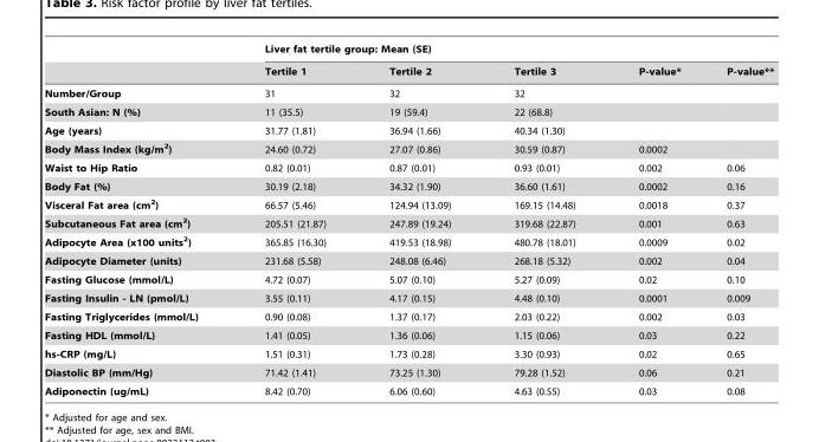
<table><thead><tr><td rowspan="2"></td><td colspan="5">Liver fat tertile group: Mean (SE)</td></tr><tr><td>Tertile 1</td><td>Tertile 2</td><td>Tertile 3</td><td>P-value*</td><td>P-value**</td></tr></thead><tbody><tr><td>Number/Group</td><td>31</td><td>32</td><td>32</td><td></td><td></td></tr><tr><td>South Asian: N (%)</td><td>11 (35.5)</td><td>19 (59.4)</td><td>22 (68.8)</td><td></td><td></td></tr><tr><td>Age (years)</td><td>31.77 (1.81)</td><td>36.94 (1.66)</td><td>40.34 (1.30)</td><td></td><td></td></tr><tr><td>Body Mass Index (kg/m<sup>2</sup>)</td><td>24.60 (0.72)</td><td>27.07 (0.86)</td><td>30.59 (0.87)</td><td>0.0002</td><td></td></tr><tr><td>Waist to Hip Ratio</td><td>0.82 (0.01)</td><td>0.87 (0.01)</td><td>0.93 (0.01)</td><td>0.002</td><td>0.06</td></tr><tr><td>Body Fat (%)</td><td>30.19 (2.18)</td><td>34.32 (1.90)</td><td>36.60 (1.61)</td><td>0.0002</td><td>0.16</td></tr><tr><td>Visceral Fat area (cm<sup>2</sup>)</td><td>66.57 (5.46)</td><td>124.94 (13.09)</td><td>169.15 (14.48)</td><td>0.0018</td><td>0.37</td></tr><tr><td>Subcutaneous Fat area (cm<sup>2</sup>)</td><td>205.51 (21.87)</td><td>247.89 (19.24)</td><td>319.68 (22.87)</td><td>0.001</td><td>0.63</td></tr><tr><td>Adipocyte Area (x100 units<sup>2</sup>)</td><td>365.85 (16.30)</td><td>419.53 (18.98)</td><td>480.78 (18.01)</td><td>0.0009</td><td>0.02</td></tr><tr><td>Adipocyte Diameter (units)</td><td>231.68 (5.58)</td><td>248.08 (6.46)</td><td>268.18 (5.32)</td><td>0.002</td><td>0.04</td></tr><tr><td>Fasting Glucose (mmol/L)</td><td>4.72 (0.07)</td><td>5.07 (0.10)</td><td>5.27 (0.09)</td><td>0.02</td><td>0.10</td></tr><tr><td>Fasting Insulin - LN (pmol/L)</td><td>3.55 (0.11)</td><td>4.17 (0.15)</td><td>4.48 (0.10)</td><td>0.0001</td><td>0.009</td></tr><tr><td>Fasting Triglycerides (mmol/L)</td><td>0.90 (0.08)</td><td>1.37 (0.17)</td><td>2.03 (0.22)</td><td>0.002</td><td>0.03</td></tr><tr><td>Fasting HDL (mmol/L)</td><td>1.41 (0.05)</td><td>1.36 (0.06)</td><td>1.15 (0.06)</td><td>0.03</td><td>0.22</td></tr><tr><td>hs-CRP (mg/L)</td><td>1.51 (0.31)</td><td>1.73 (0.28)</td><td>3.30 (0.93)</td><td>0.02</td><td>0.65</td></tr><tr><td>Diastolic BP (mm/Hg)</td><td>71.42 (1.41)</td><td>73.25 (1.30)</td><td>79.28 (1.52)</td><td>0.06</td><td>0.21</td></tr><tr><td>Adiponectin (ug/mL)</td><td>8.42 (0.70)</td><td>6.06 (0.60)</td><td>4.63 (0.55)</td><td>0.03</td><td>0.08</td></tr></tbody></table>